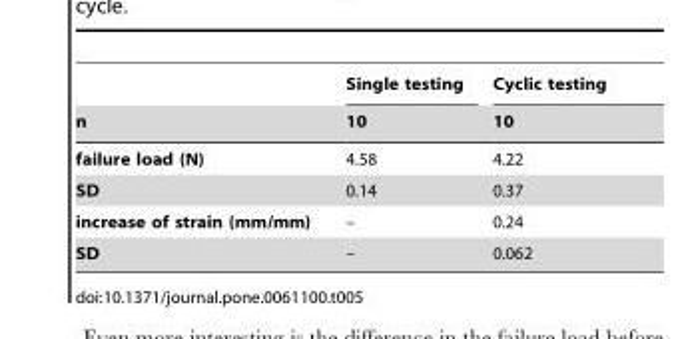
<table><thead><tr><td rowspan="2">n</td><td rowspan="2">Single testing 10</td><td rowspan="2">Cyclic testing 10</td></tr><tr></tr></thead><tbody><tr><td>failure load (N)</td><td>4.58</td><td>4.22</td></tr><tr><td>SD</td><td>0.14</td><td>0.37</td></tr><tr><td>increase of strain (mm/mm)</td><td>–</td><td>0.24</td></tr><tr><td>SD</td><td>–</td><td>0.062</td></tr></tbody></table>